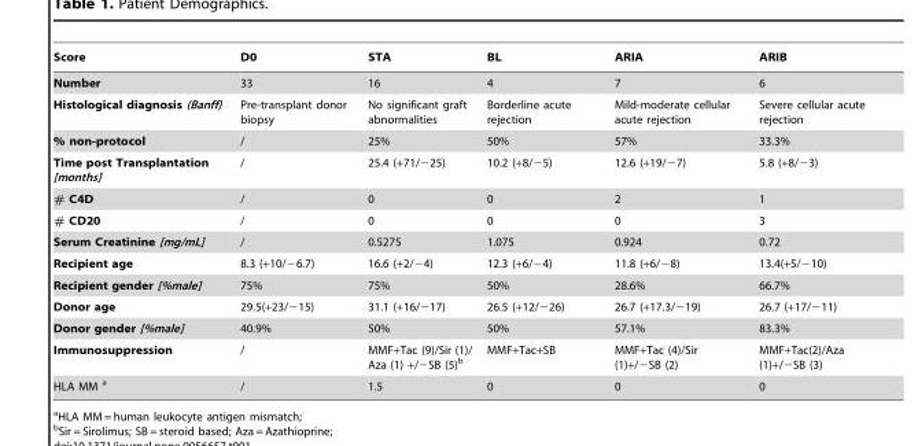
<table><thead><tr><td>Score</td><td>D0</td><td>STA</td><td>BL</td><td>ARIA</td><td>ARIB</td></tr></thead><tbody><tr><td>Number</td><td>33</td><td>16</td><td>4</td><td>7</td><td>6</td></tr><tr><td>Histological diagnosis (Banff)</td><td>Pre-transplant donor biopsy</td><td>No significant graft abnormalities</td><td>Borderline acute rejection</td><td>Mild-moderate cellular acute rejection</td><td>Severe cellular acute rejection</td></tr><tr><td>% non-protocol</td><td>/</td><td>25%</td><td>50%</td><td>57%</td><td>33.3%</td></tr><tr><td>Time post Transplantation [months]</td><td>/</td><td>25.4 (+71/−25)</td><td>10.2 (+8/−5)</td><td>12.6 (+19/−7)</td><td>5.8 (+8/−3)</td></tr><tr><td># C4D</td><td>/</td><td>0</td><td>0</td><td>2</td><td>1</td></tr><tr><td># CD20</td><td>/</td><td>0</td><td>0</td><td>0</td><td>3</td></tr><tr><td>Serum Creatinine [mg/mL]</td><td>/</td><td>0.5275</td><td>1.075</td><td>0.924</td><td>0.72</td></tr><tr><td>Recipient age</td><td>8.3 (+10/−6.7)</td><td>16.6 (+2/−4)</td><td>12.3 (+6/−4)</td><td>11.8 (+6/−8)</td><td>13.4(+5/−10)</td></tr><tr><td>Recipient gender [%male]</td><td>75%</td><td>75%</td><td>50%</td><td>28.6%</td><td>66.7%</td></tr><tr><td>Donor age</td><td>29.5(+23/−15)</td><td>31.1 (+16/−17)</td><td>26.5 (+12/−26)</td><td>26.7 (+17.3/−19)</td><td>26.7 (+17/−11)</td></tr><tr><td>Donor gender [%male]</td><td>40.9%</td><td>50%</td><td>50%</td><td>57.1%</td><td>83.3%</td></tr><tr><td>Immunosuppression</td><td>/</td><td>MMF+Tac (9)/Sir (1)/ Aza (1) +/−SB (5)<sup>b</sup></td><td>MMF+Tac+SB</td><td>MMF+Tac (4)/Sir (1)+/−SB (2)</td><td>MMF+Tac(2)/Aza (1)+/−SB (3)</td></tr><tr><td>HLA MM a</td><td>/</td><td>1.5</td><td>0</td><td>0</td><td>0</td></tr></tbody></table>